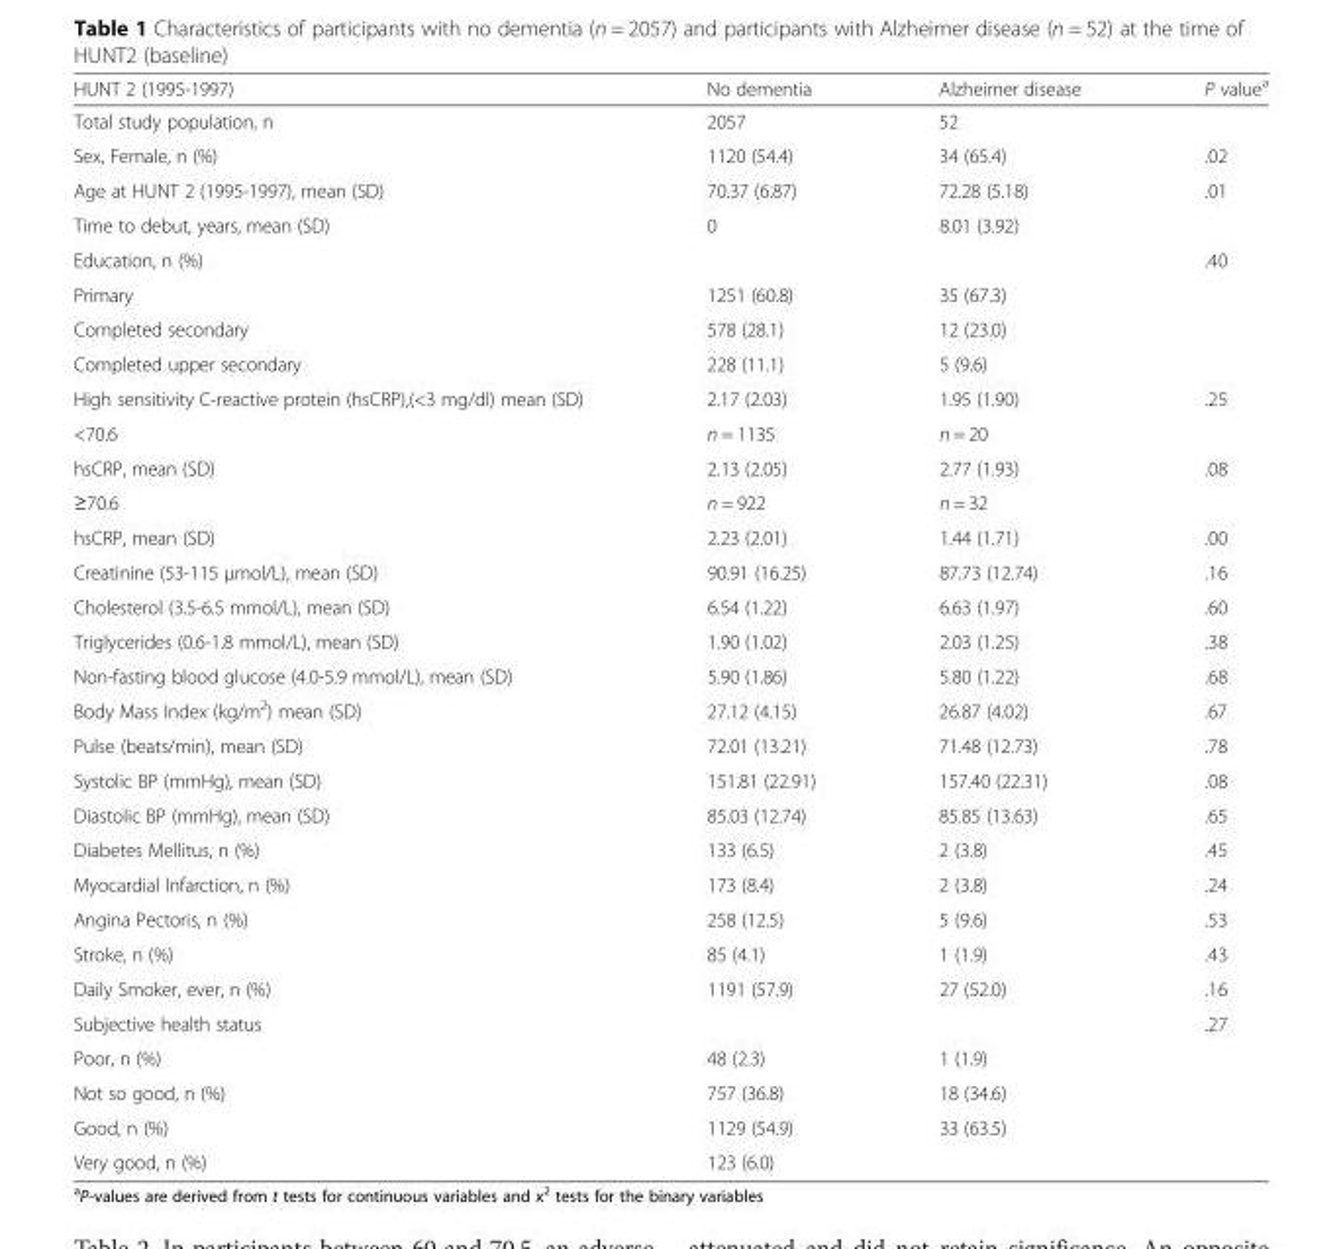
<table><thead><tr><td>HUNT 2 (1995-1997)</td><td>No dementia</td><td>Alzheimer disease</td><td>P value<sup>a</sup></td></tr></thead><tbody><tr><td>Total study population, n</td><td>2057</td><td>52</td><td></td></tr><tr><td>Sex, Female, n (%)</td><td>1120 (54.4)</td><td>34 (65.4)</td><td>.02</td></tr><tr><td>Age at HUNT 2 (1995-1997), mean (SD)</td><td>70.37 (6.87)</td><td>72.28 (5.18)</td><td>.01</td></tr><tr><td>Time to debut, years, mean (SD)</td><td>0</td><td>8.01 (3.92)</td><td></td></tr><tr><td>Education, n (%)</td><td></td><td></td><td>.40</td></tr><tr><td>Primary</td><td>1251 (60.8)</td><td>35 (67.3)</td><td></td></tr><tr><td>Completed secondary</td><td>578 (28.1)</td><td>12 (23.0)</td><td></td></tr><tr><td>Completed upper secondary</td><td>228 (11.1)</td><td>5 (9.6)</td><td></td></tr><tr><td>High sensitivity C-reactive protein (hsCRP),(&lt;3 mg/dl) mean (SD)</td><td>2.17 (2.03)</td><td>1.95 (1.90)</td><td>.25</td></tr><tr><td>&lt;70.6</td><td>n = 1135</td><td>n = 20</td><td></td></tr><tr><td>hsCRP, mean (SD)</td><td>2.13 (2.05)</td><td>2.77 (1.93)</td><td>.08</td></tr><tr><td>≥70.6</td><td>n = 922</td><td>n = 32</td><td></td></tr><tr><td>hsCRP, mean (SD)</td><td>2.23 (2.01)</td><td>1.44 (1.71)</td><td>.00</td></tr><tr><td>Creatinine (53-115 μmol/L), mean (SD)</td><td>90.91 (16.25)</td><td>87.73 (12.74)</td><td>.16</td></tr><tr><td>Cholesterol (3.5-6.5 mmol/L), mean (SD)</td><td>6.54 (1.22)</td><td>6.63 (1.97)</td><td>.60</td></tr><tr><td>Triglycerides (0.6-1.8 mmol/L), mean (SD)</td><td>1.90 (1.02)</td><td>2.03 (1.25)</td><td>.38</td></tr><tr><td>Non-fasting blood glucose (4.0-5.9 mmol/L), mean (SD)</td><td>5.90 (1.86)</td><td>5.80 (1.22)</td><td>.68</td></tr><tr><td>Body Mass Index (kg/m<sup>2</sup>) mean (SD)</td><td>27.12 (4.15)</td><td>26.87 (4.02)</td><td>.67</td></tr><tr><td>Pulse (beats/min), mean (SD)</td><td>72.01 (13.21)</td><td>71.48 (12.73)</td><td>.78</td></tr><tr><td>Systolic BP (mmHg), mean (SD)</td><td>151.81 (22.91)</td><td>157.40 (22.31)</td><td>.08</td></tr><tr><td>Diastolic BP (mmHg), mean (SD)</td><td>85.03 (12.74)</td><td>85.85 (13.63)</td><td>.65</td></tr><tr><td>Diabetes Mellitus, n (%)</td><td>133 (6.5)</td><td>2 (3.8)</td><td>.45</td></tr><tr><td>Myocardial Infarction, n (%)</td><td>173 (8.4)</td><td>2 (3.8)</td><td>.24</td></tr><tr><td>Angina Pectoris, n (%)</td><td>258 (12.5)</td><td>5 (9.6)</td><td>.53</td></tr><tr><td>Stroke, n (%)</td><td>85 (4.1)</td><td>1 (1.9)</td><td>.43</td></tr><tr><td>Daily Smoker, ever, n (%)</td><td>1191 (57.9)</td><td>27 (52.0)</td><td>.16</td></tr><tr><td>Subjective health status</td><td></td><td></td><td>.27</td></tr><tr><td>Poor, n (%)</td><td>48 (2.3)</td><td>1 (1.9)</td><td></td></tr><tr><td>Not so good, n (%)</td><td>757 (36.8)</td><td>18 (34.6)</td><td></td></tr><tr><td>Good, n (%)</td><td>1129 (54.9)</td><td>33 (63.5)</td><td></td></tr><tr><td>Very good, n (%)</td><td>123 (6.0)</td><td></td><td></td></tr></tbody></table>